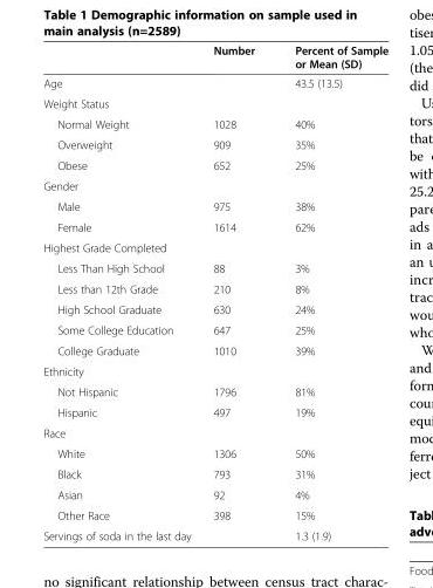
<table><thead><tr><td></td><td>Number</td><td>Percent of Sample or Mean (SD)</td></tr></thead><tbody><tr><td>Age</td><td></td><td>43.5 (13.5)</td></tr><tr><td colspan="3">Weight Status</td></tr><tr><td>Normal Weight</td><td>1028</td><td>40%</td></tr><tr><td>Overweight</td><td>909</td><td>35%</td></tr><tr><td>Obese</td><td>652</td><td>25%</td></tr><tr><td colspan="3">Gender</td></tr><tr><td>Male</td><td>975</td><td>38%</td></tr><tr><td>Female</td><td>1614</td><td>62%</td></tr><tr><td colspan="3">Highest Grade Completed</td></tr><tr><td>Less Than High School</td><td>88</td><td>3%</td></tr><tr><td>Less than 12th Grade</td><td>210</td><td>8%</td></tr><tr><td>High School Graduate</td><td>630</td><td>24%</td></tr><tr><td>Some College Education</td><td>647</td><td>25%</td></tr><tr><td>College Graduate</td><td>1010</td><td>39%</td></tr><tr><td colspan="3">Ethnicity</td></tr><tr><td>Not Hispanic</td><td>1796</td><td>81%</td></tr><tr><td>Hispanic</td><td>497</td><td>19%</td></tr><tr><td colspan="3">Race</td></tr><tr><td>White</td><td>1306</td><td>50%</td></tr><tr><td>Black</td><td>793</td><td>31%</td></tr><tr><td>Asian</td><td>92</td><td>4%</td></tr><tr><td>Other Race</td><td>398</td><td>15%</td></tr><tr><td colspan="2">Servings of soda in the last day</td><td>1.3 (1.9)</td></tr></tbody></table>